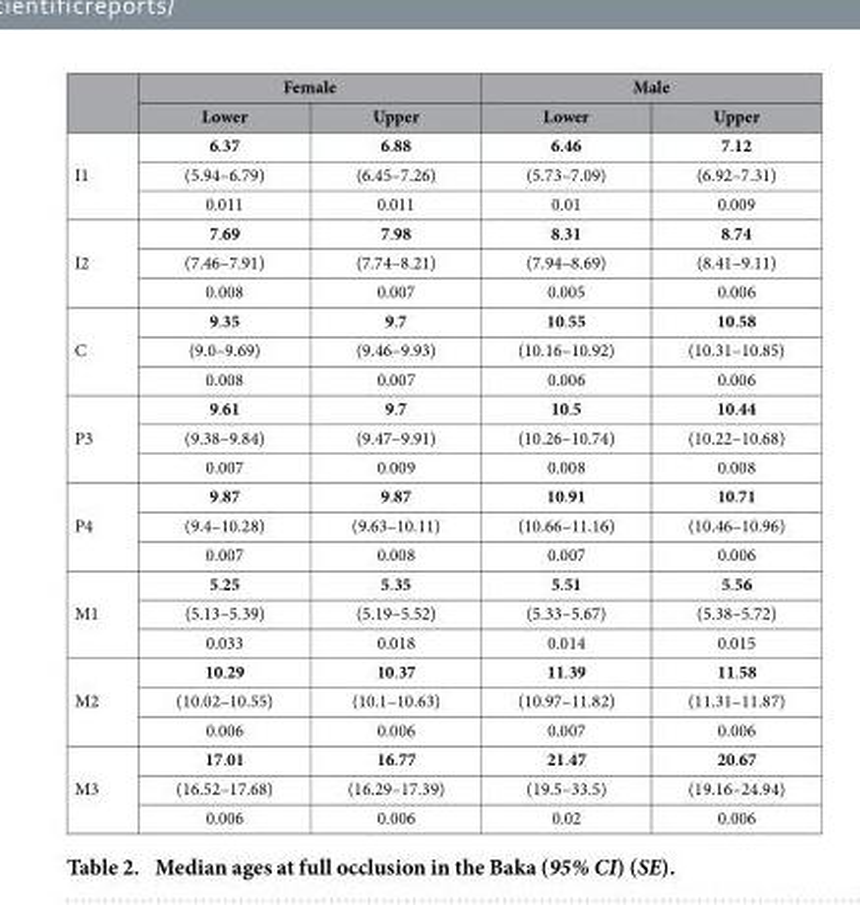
<table><thead><tr><td rowspan="2"></td><td colspan="2">Female</td><td colspan="2">Male</td></tr><tr><td>Lower</td><td>Upper</td><td>Lower</td><td>Upper</td></tr></thead><tbody><tr><td rowspan="3">I1</td><td>6.37</td><td>6.88</td><td>6.46</td><td>7.12</td></tr><tr><td>(5.94–6.79)</td><td>(6.45–7.26)</td><td>(5.73–7.09)</td><td>(6.92–7.31)</td></tr><tr><td>0.011</td><td>0.011</td><td>0.01</td><td>0.009</td></tr><tr><td rowspan="3">I2</td><td>7.69</td><td>7.98</td><td>8.31</td><td>8.74</td></tr><tr><td>(7.46–7.91)</td><td>(7.74–8.21)</td><td>(7.94–8.69)</td><td>(8.41–9.11)</td></tr><tr><td>0.008</td><td>0.007</td><td>0.005</td><td>0.006</td></tr><tr><td rowspan="3">C</td><td>9.35</td><td>9.7</td><td>10.55</td><td>10.58</td></tr><tr><td>(9.0–9.69)</td><td>(9.46–9.93)</td><td>(10.16–10.92)</td><td>(10.31–10.85)</td></tr><tr><td>0.008</td><td>0.007</td><td>0.006</td><td>0.006</td></tr><tr><td rowspan="3">P3</td><td>9.61</td><td>9.7</td><td>10.5</td><td>10.44</td></tr><tr><td>(9.38–9.84)</td><td>(9.47–9.91)</td><td>(10.26–10.74)</td><td>(10.22–10.68)</td></tr><tr><td>0.007</td><td>0.009</td><td>0.008</td><td>0.008</td></tr><tr><td rowspan="3">P4</td><td>9.87</td><td>9.87</td><td>10.91</td><td>10.71</td></tr><tr><td>(9.4–10.28)</td><td>(9.63–10.11)</td><td>(10.66–11.16)</td><td>(10.46–10.96)</td></tr><tr><td>0.007</td><td>0.008</td><td>0.007</td><td>0.006</td></tr><tr><td rowspan="3">M1</td><td>5.25</td><td>5.35</td><td>5.51</td><td>5.56</td></tr><tr><td>(5.13–5.39)</td><td>(5.19–5.52)</td><td>(5.33–5.67)</td><td>(5.38–5.72)</td></tr><tr><td>0.033</td><td>0.018</td><td>0.014</td><td>0.015</td></tr><tr><td rowspan="3">M2</td><td>10.29</td><td>10.37</td><td>11.39</td><td>11.58</td></tr><tr><td>(10.02–10.55)</td><td>(10.1–10.63)</td><td>(10.97–11.82)</td><td>(11.31–11.87)</td></tr><tr><td>0.006</td><td>0.006</td><td>0.007</td><td>0.006</td></tr><tr><td rowspan="3">M3</td><td>17.01</td><td>16.77</td><td>21.47</td><td>20.67</td></tr><tr><td>(16.52–17.68)</td><td>(16.29–17.39)</td><td>(19.5–33.5)</td><td>(19.16–24.94)</td></tr><tr><td>0.006</td><td>0.006</td><td>0.02</td><td>0.006</td></tr></tbody></table>